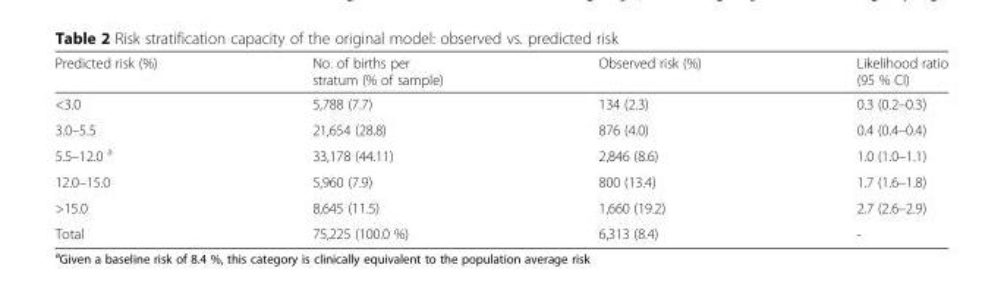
<table><thead><tr><td>Predicted risk (%)</td><td>No. of births per stratum (% of sample)</td><td>Observed risk (%)</td><td>Likelihood ratio (95 % CI)</td></tr></thead><tbody><tr><td>&lt;3.0</td><td>5,788 (7.7)</td><td>134 (2.3)</td><td>0.3 (0.2–0.3)</td></tr><tr><td>3.0–5.5</td><td>21,654 (28.8)</td><td>876 (4.0)</td><td>0.4 (0.4–0.4)</td></tr><tr><td>5.5–12.0 <sup>a</sup></td><td>33,178 (44.11)</td><td>2,846 (8.6)</td><td>1.0 (1.0–1.1)</td></tr><tr><td>12.0–15.0</td><td>5,960 (7.9)</td><td>800 (13.4)</td><td>1.7 (1.6–1.8)</td></tr><tr><td>&gt;15.0</td><td>8,645 (11.5)</td><td>1,660 (19.2)</td><td>2.7 (2.6–2.9)</td></tr><tr><td>Total</td><td>75,225 (100.0 %)</td><td>6,313 (8.4)</td><td>-</td></tr></tbody></table>